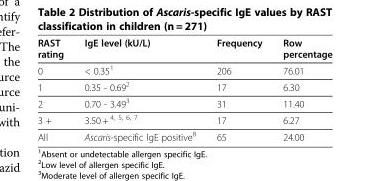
<table><thead><tr><td>RAST rating</td><td>IgE level (kU/L)</td><td>Frequency</td><td>Row percentage</td></tr></thead><tbody><tr><td>0</td><td>&lt; 0.35<sup>1</sup></td><td>206</td><td>76.01</td></tr><tr><td>1</td><td>0.35 - 0.69<sup>2</sup></td><td>17</td><td>6.30</td></tr><tr><td>2</td><td>0.70 - 3.49<sup>3</sup></td><td>31</td><td>11.40</td></tr><tr><td>3 +</td><td>3.50 + <sup>4, 5, 6, 7</sup></td><td>17</td><td>6.27</td></tr><tr><td>All</td><td>Ascaris-specific IgE positive<sup>8</sup></td><td>65</td><td>24.00</td></tr></tbody></table>